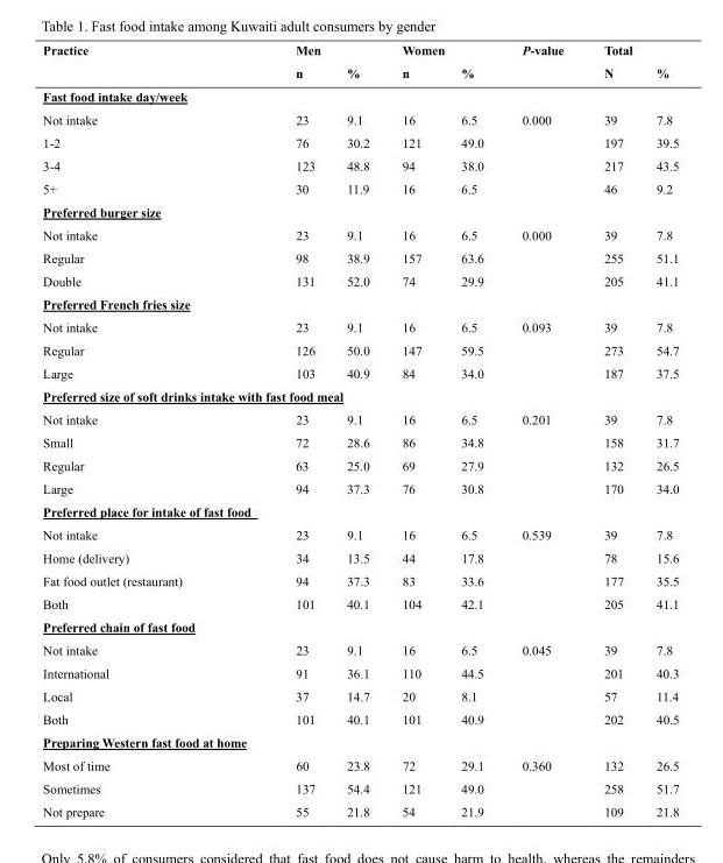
<table><thead><tr><td rowspan="2">Practice</td><td colspan="2">Men</td><td colspan="2">Women</td><td rowspan="2">P-value</td><td colspan="2">Total</td></tr><tr><td>n</td><td>%</td><td>n</td><td>%</td><td>N</td><td>%</td></tr></thead><tbody><tr><td colspan="8">Fast food intake day/week</td></tr><tr><td>Not intake</td><td>23</td><td>9.1</td><td>16</td><td>6.5</td><td>0.000</td><td>39</td><td>7.8</td></tr><tr><td>1-2</td><td>76</td><td>30.2</td><td>121</td><td>49.0</td><td></td><td>197</td><td>39.5</td></tr><tr><td>3-4</td><td>123</td><td>48.8</td><td>94</td><td>38.0</td><td></td><td>217</td><td>43.5</td></tr><tr><td>5+</td><td>30</td><td>11.9</td><td>16</td><td>6.5</td><td></td><td>46</td><td>9.2</td></tr><tr><td colspan="8">Preferred burger size</td></tr><tr><td>Not intake</td><td>23</td><td>9.1</td><td>16</td><td>6.5</td><td>0.000</td><td>39</td><td>7.8</td></tr><tr><td>Regular</td><td>98</td><td>38.9</td><td>157</td><td>63.6</td><td></td><td>255</td><td>51.1</td></tr><tr><td>Double</td><td>131</td><td>52.0</td><td>74</td><td>29.9</td><td></td><td>205</td><td>41.1</td></tr><tr><td colspan="8">Preferred French fries size</td></tr><tr><td>Not intake</td><td>23</td><td>9.1</td><td>16</td><td>6.5</td><td>0.093</td><td>39</td><td>7.8</td></tr><tr><td>Regular</td><td>126</td><td>50.0</td><td>147</td><td>59.5</td><td></td><td>273</td><td>54.7</td></tr><tr><td>Large</td><td>103</td><td>40.9</td><td>84</td><td>34.0</td><td></td><td>187</td><td>37.5</td></tr><tr><td colspan="8">Preferred size of soft drinks intake with fast food meal</td></tr><tr><td>Not intake</td><td>23</td><td>9.1</td><td>16</td><td>6.5</td><td>0.201</td><td>39</td><td>7.8</td></tr><tr><td>Small</td><td>72</td><td>28.6</td><td>86</td><td>34.8</td><td></td><td>158</td><td>31.7</td></tr><tr><td>Regular</td><td>63</td><td>25.0</td><td>69</td><td>27.9</td><td></td><td>132</td><td>26.5</td></tr><tr><td>Large</td><td>94</td><td>37.3</td><td>76</td><td>30.8</td><td></td><td>170</td><td>34.0</td></tr><tr><td colspan="8">Preferred place for intake of fast food</td></tr><tr><td>Not intake</td><td>23</td><td>9.1</td><td>16</td><td>6.5</td><td>0.539</td><td>39</td><td>7.8</td></tr><tr><td>Home (delivery)</td><td>34</td><td>13.5</td><td>44</td><td>17.8</td><td></td><td>78</td><td>15.6</td></tr><tr><td>Fat food outlet (restaurant)</td><td>94</td><td>37.3</td><td>83</td><td>33.6</td><td></td><td>177</td><td>35.5</td></tr><tr><td>Both</td><td>101</td><td>40.1</td><td>104</td><td>42.1</td><td></td><td>205</td><td>41.1</td></tr><tr><td colspan="8">Preferred chain of fast food</td></tr><tr><td>Not intake</td><td>23</td><td>9.1</td><td>16</td><td>6.5</td><td>0.045</td><td>39</td><td>7.8</td></tr><tr><td>International</td><td>91</td><td>36.1</td><td>110</td><td>44.5</td><td></td><td>201</td><td>40.3</td></tr><tr><td>Local</td><td>37</td><td>14.7</td><td>20</td><td>8.1</td><td></td><td>57</td><td>11.4</td></tr><tr><td>Both</td><td>101</td><td>40.1</td><td>101</td><td>40.9</td><td></td><td>202</td><td>40.5</td></tr><tr><td colspan="8">Preparing Western fast food at home</td></tr><tr><td>Most of time</td><td>60</td><td>23.8</td><td>72</td><td>29.1</td><td>0.360</td><td>132</td><td>26.5</td></tr><tr><td>Sometimes</td><td>137</td><td>54.4</td><td>121</td><td>49.0</td><td></td><td>258</td><td>51.7</td></tr><tr><td>Not prepare</td><td>55</td><td>21.8</td><td>54</td><td>21.9</td><td></td><td>109</td><td>21.8</td></tr></tbody></table>